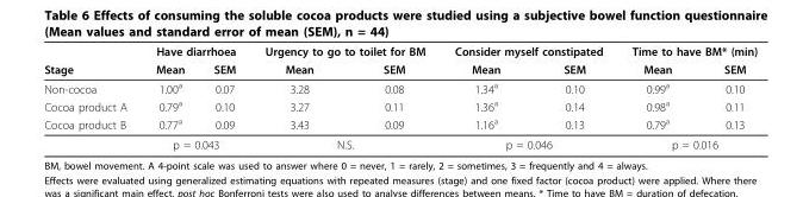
<table><thead><tr><td rowspan="2">Stage</td><td colspan="2">Have diarrhoea</td><td colspan="2">Urgency to go to toilet for BM</td><td colspan="2">Consider myself constipated</td><td colspan="2">Time to have BM* (min)</td></tr><tr><td>Mean</td><td>SEM</td><td>Mean</td><td>SEM</td><td>Mean</td><td>SEM</td><td>Mean</td><td>SEM</td></tr></thead><tbody><tr><td>Non-cocoa</td><td>1.00<sup>a</sup></td><td>0.07</td><td>3.28</td><td>0.08</td><td>1.34<sup>a</sup></td><td>0.10</td><td>0.99<sup>a</sup></td><td>0.10</td></tr><tr><td>Cocoa product A</td><td>0.79<sup>a</sup></td><td>0.10</td><td>3.27</td><td>0.11</td><td>1.36<sup>a</sup></td><td>0.14</td><td>0.98<sup>a</sup></td><td>0.11</td></tr><tr><td rowspan="2">Cocoa product B</td><td>0.77<sup>a</sup></td><td>0.09</td><td>3.43</td><td>0.09</td><td>1.16<sup>a</sup></td><td>0.13</td><td>0.79<sup>a</sup></td><td>0.13</td></tr><tr><td colspan="2">p = 0.043</td><td colspan="2">N.S.</td><td colspan="2">p = 0.046</td><td colspan="2">p = 0.016</td></tr></tbody></table>